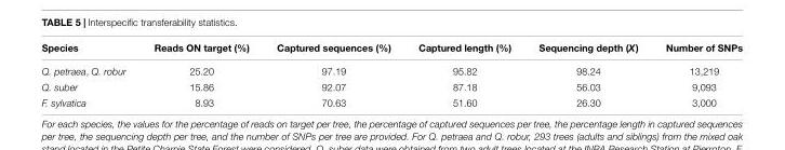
<table><thead><tr><td>Species</td><td>Reads ON target (%)</td><td>Captured sequences (%)</td><td>Captured length (%)</td><td>Sequencing depth (X)</td><td>Number of SNPs</td></tr></thead><tbody><tr><td>Q. petraea, Q. robur</td><td>25.20</td><td>97.19</td><td>95.82</td><td>98.24</td><td>13,219</td></tr><tr><td>Q. suber</td><td>15.86</td><td>92.07</td><td>87.18</td><td>56.03</td><td>9,093</td></tr><tr><td>F. sylvatica</td><td>8.93</td><td>70.63</td><td>51.60</td><td>26.30</td><td>3,000</td></tr></tbody></table>